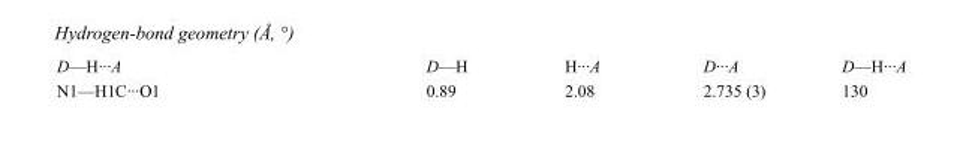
<table><tbody><tr><td>D—H···A</td><td>D—H</td><td>H···A</td><td>D···A</td><td>D—H···A</td></tr><tr><td>N1—H1C···O1</td><td>0.89</td><td>2.08</td><td>2.735 (3)</td><td>130</td></tr></tbody></table>